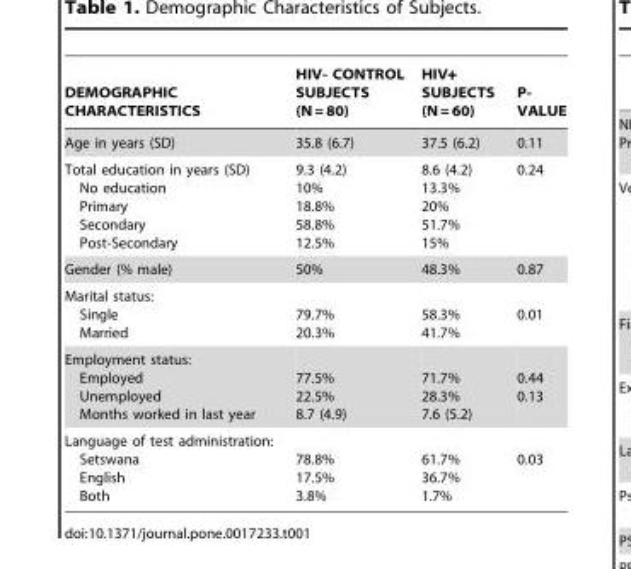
<table><thead><tr><td>DEMOGRAPHIC CHARACTERISTICS</td><td>HIV- CONTROL SUBJECTS (N = 80)</td><td>HIV+ SUBJECTS (N = 60)</td><td>P- VALUE</td></tr></thead><tbody><tr><td>Age in years (SD)</td><td>35.8 (6.7)</td><td>37.5 (6.2)</td><td>0.11</td></tr><tr><td>Total education in years (SD) No education Primary Secondary Post-Secondary</td><td>9.3 (4.2) 10% 18.8% 58.8% 12.5%</td><td>8.6 (4.2) 13.3% 20% 51.7% 15%</td><td>0.24</td></tr><tr><td>Gender (% male)</td><td>50%</td><td>48.3%</td><td>0.87</td></tr><tr><td>Marital status: Single Married</td><td>79.7% 20.3%</td><td>58.3% 41.7%</td><td>0.01</td></tr><tr><td>Employment status: Employed Unemployed Months worked in last year</td><td>77.5% 22.5% 8.7 (4.9)</td><td>71.7% 28.3% 7.6 (5.2)</td><td>0.44 0.13</td></tr><tr><td>Language of test administration: Setswana English Both</td><td>78.8% 17.5% 3.8%</td><td>61.7% 36.7% 1.7%</td><td>0.03</td></tr></tbody></table>